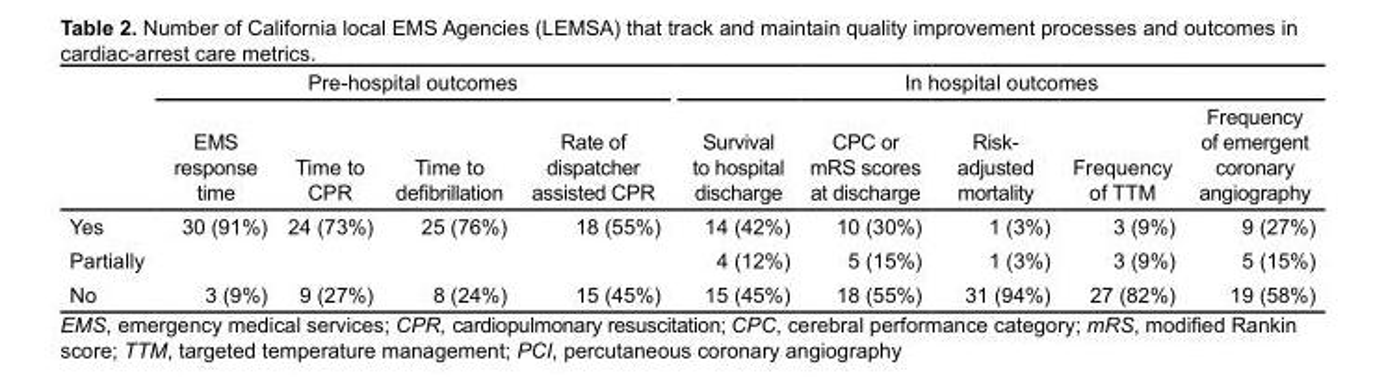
<table><thead><tr><td rowspan="2"></td><td colspan="4">Pre-hospital outcomes</td><td colspan="5">In hospital outcomes</td></tr><tr><td>EMS response time</td><td>Time to CPR</td><td>Time to defibrillation</td><td>Rate of dispatcher assisted CPR</td><td>Survival to hospital discharge</td><td>CPC or mRS scores at discharge</td><td>Risk- adjusted mortality</td><td>Frequency of TTM</td><td>Frequency of emergent coronary angiography</td></tr></thead><tbody><tr><td>Yes</td><td>30 (91%)</td><td>24 (73%)</td><td>25 (76%)</td><td>18 (55%)</td><td>14 (42%)</td><td>10 (30%)</td><td>1 (3%)</td><td>3 (9%)</td><td>9 (27%)</td></tr><tr><td>Partially</td><td></td><td></td><td></td><td></td><td>4 (12%)</td><td>5 (15%)</td><td>1 (3%)</td><td>3 (9%)</td><td>5 (15%)</td></tr><tr><td>No</td><td>3 (9%)</td><td>9 (27%)</td><td>8 (24%)</td><td>15 (45%)</td><td>15 (45%)</td><td>18 (55%)</td><td>31 (94%)</td><td>27 (82%)</td><td>19 (58%)</td></tr></tbody></table>